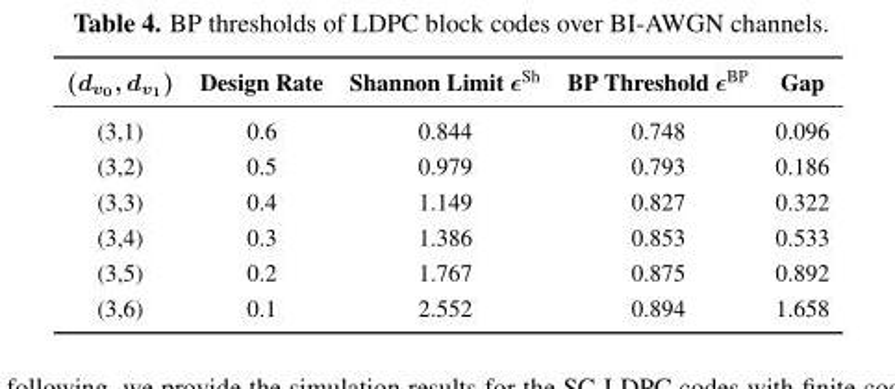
<table><thead><tr><td>(dv0, dv1)</td><td>Design Rate</td><td>Shannon Limit ϵSh</td><td>BP Threshold ϵBP</td><td>Gap</td></tr></thead><tbody><tr><td>(3,1)</td><td>0.6</td><td>0.844</td><td>0.748</td><td>0.096</td></tr><tr><td>(3,2)</td><td>0.5</td><td>0.979</td><td>0.793</td><td>0.186</td></tr><tr><td>(3,3)</td><td>0.4</td><td>1.149</td><td>0.827</td><td>0.322</td></tr><tr><td>(3,4)</td><td>0.3</td><td>1.386</td><td>0.853</td><td>0.533</td></tr><tr><td>(3,5)</td><td>0.2</td><td>1.767</td><td>0.875</td><td>0.892</td></tr><tr><td>(3,6)</td><td>0.1</td><td>2.552</td><td>0.894</td><td>1.658</td></tr></tbody></table>